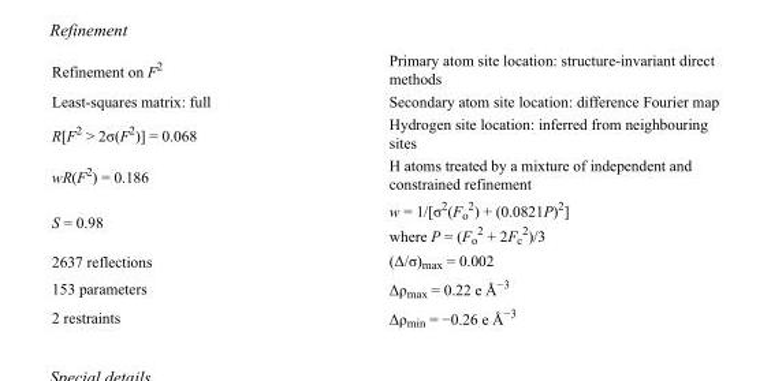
<table><tbody><tr><td>Refinement on F<sup>2</sup></td><td>Primary atom site location: structure-invariant direct methods</td></tr><tr><td>Least-squares matrix: full</td><td>Secondary atom site location: difference Fourier map</td></tr><tr><td>R[F<sup>2</sup> &gt; 2σ(F<sup>2</sup>)] = 0.068</td><td>Hydrogen site location: inferred from neighbouring sites</td></tr><tr><td>wR(F<sup>2</sup>) = 0.186</td><td>H atoms treated by a mixture of independent and constrained refinement</td></tr><tr><td>S = 0.98</td><td>w = 1/[σ<sup>2</sup>(F<sub>o</sub> <sup>2</sup>) + (0.0821P)<sup>2</sup>] where P = (F<sub>o</sub> <sup>2</sup> + 2F<sub>c</sub> <sup>2</sup>)/3</td></tr><tr><td>2637 reflections</td><td>(Δ/σ)<sub>max</sub> = 0.002</td></tr><tr><td>153 parameters</td><td>Δρ<sub>max</sub> = 0.22 e Å<sup>−3</sup></td></tr><tr><td>2 restraints</td><td>Δρ<sub>min</sub> = −0.26 e Å<sup>−3</sup></td></tr></tbody></table>